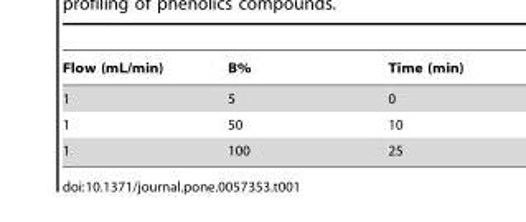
<table><thead><tr><td>Flow (mL/min)</td><td>B%</td><td>Time (min)</td></tr></thead><tbody><tr><td>1</td><td>5</td><td>0</td></tr><tr><td>1</td><td>50</td><td>10</td></tr><tr><td>1</td><td>100</td><td>25</td></tr></tbody></table>